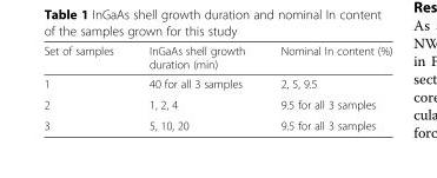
<table><thead><tr><td>Set of samples</td><td>InGaAs shell growth duration (min)</td><td>Nominal In content (%)</td></tr></thead><tbody><tr><td>1</td><td>40 for all 3 samples</td><td>2, 5, 9.5</td></tr><tr><td>2</td><td>1, 2, 4</td><td>9.5 for all 3 samples</td></tr><tr><td>3</td><td>5, 10, 20</td><td>9.5 for all 3 samples</td></tr></tbody></table>